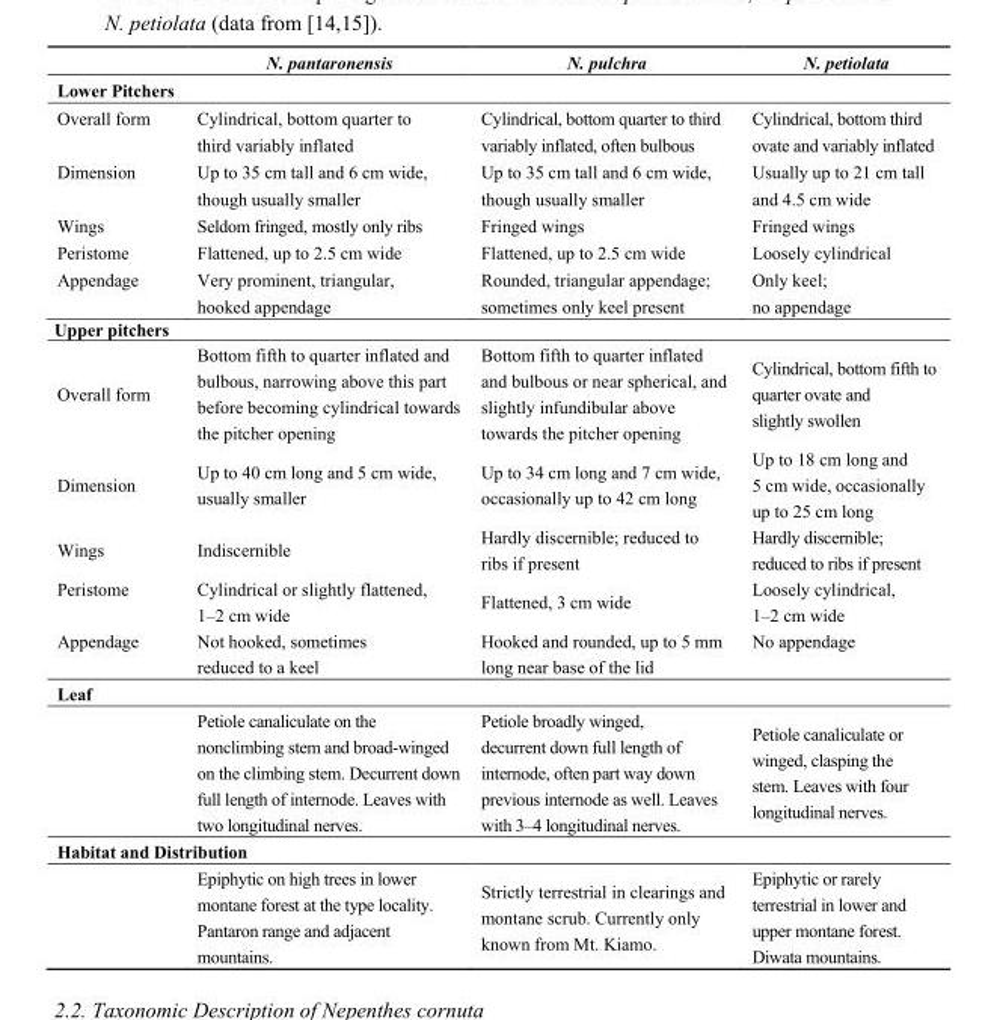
<table><thead><tr><td></td><td>N. pantaronensis</td><td>N. pulchra</td><td>N. petiolata</td></tr></thead><tbody><tr><td colspan="4">Lower Pitchers</td></tr><tr><td>Overall form</td><td>Cylindrical, bottom quarter to third variably inflated</td><td>Cylindrical, bottom quarter to third variably inflated, often bulbous</td><td>Cylindrical, bottom third ovate and variably inflated</td></tr><tr><td>Dimension</td><td>Up to 35 cm tall and 6 cm wide, though usually smaller</td><td>Up to 35 cm tall and 6 cm wide, though usually smaller</td><td>Usually up to 21 cm tall and 4.5 cm wide</td></tr><tr><td>Wings</td><td>Seldom fringed, mostly only ribs</td><td>Fringed wings</td><td>Fringed wings</td></tr><tr><td>Peristome</td><td>Flattened, up to 2.5 cm wide</td><td>Flattened, up to 2.5 cm wide</td><td>Loosely cylindrical</td></tr><tr><td>Appendage</td><td>Very prominent, triangular, hooked appendage</td><td>Rounded, triangular appendage; sometimes only keel present</td><td>Only keel; no appendage</td></tr><tr><td colspan="4">Upper pitchers</td></tr><tr><td>Overall form</td><td>Bottom fifth to quarter inflated and bulbous, narrowing above this part before becoming cylindrical towards the pitcher opening</td><td>Bottom fifth to quarter inflated and bulbous or near spherical, and slightly infundibular above towards the pitcher opening</td><td>Cylindrical, bottom fifth to quarter ovate and slightly swollen</td></tr><tr><td>Dimension</td><td>Up to 40 cm long and 5 cm wide, usually smaller</td><td>Up to 34 cm long and 7 cm wide, occasionally up to 42 cm long</td><td>Up to 18 cm long and 5 cm wide, occasionally up to 25 cm long</td></tr><tr><td>Wings</td><td>Indiscernible</td><td>Hardly discernible; reduced to ribs if present</td><td>Hardly discernible; reduced to ribs if present</td></tr><tr><td>Peristome</td><td>Cylindrical or slightly flattened, 1–2 cm wide</td><td>Flattened, 3 cm wide</td><td>Loosely cylindrical, 1–2 cm wide</td></tr><tr><td>Appendage</td><td>Not hooked, sometimes reduced to a keel</td><td>Hooked and rounded, up to 5 mm long near base of the lid</td><td>No appendage</td></tr><tr><td colspan="4">Leaf</td></tr><tr><td></td><td>Petiole canaliculate on the nonclimbing stem and broad-winged on the climbing stem. Decurrent down full length of internode. Leaves with two longitudinal nerves.</td><td>Petiole broadly winged, decurrent down full length of internode, often part way down previous internode as well. Leaves with 3–4 longitudinal nerves.</td><td>Petiole canaliculate or winged, clasping the stem. Leaves with four longitudinal nerves.</td></tr><tr><td colspan="4">Habitat and Distribution</td></tr><tr><td></td><td>Epiphytic on high trees in lower montane forest at the type locality. Pantaron range and adjacent mountains.</td><td>Strictly terrestrial in clearings and montane scrub. Currently only known from Mt. Kiamo.</td><td>Epiphytic or rarely terrestrial in lower and upper montane forest. Diwata mountains.</td></tr></tbody></table>